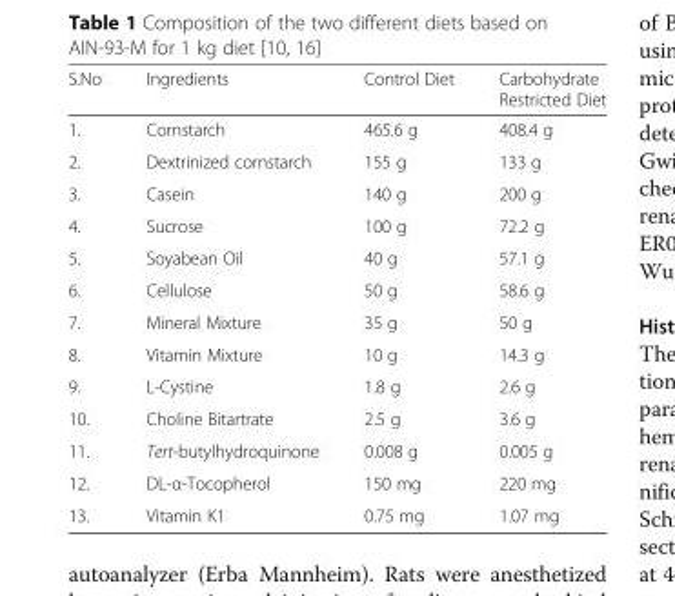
<table><thead><tr><td>S.No</td><td>Ingredients</td><td>Control Diet</td><td>Carbohydrate Restricted Diet</td></tr></thead><tbody><tr><td>1.</td><td>Cornstarch</td><td>465.6 g</td><td>408.4 g</td></tr><tr><td>2.</td><td>Dextrinized cornstarch</td><td>155 g</td><td>133 g</td></tr><tr><td>3.</td><td>Casein</td><td>140 g</td><td>200 g</td></tr><tr><td>4.</td><td>Sucrose</td><td>100 g</td><td>72.2 g</td></tr><tr><td>5.</td><td>Soyabean Oil</td><td>40 g</td><td>57.1 g</td></tr><tr><td>6.</td><td>Cellulose</td><td>50 g</td><td>58.6 g</td></tr><tr><td>7.</td><td>Mineral Mixture</td><td>35 g</td><td>50 g</td></tr><tr><td>8.</td><td>Vitamin Mixture</td><td>10 g</td><td>14.3 g</td></tr><tr><td>9.</td><td>L-Cystine</td><td>1.8 g</td><td>2.6 g</td></tr><tr><td>10.</td><td>Choline Bitartrate</td><td>2.5 g</td><td>3.6 g</td></tr><tr><td>11.</td><td>Tert-butylhydroquinone</td><td>0.008 g</td><td>0.005 g</td></tr><tr><td>12.</td><td>DL-α-Tocopherol</td><td>150 mg</td><td>220 mg</td></tr><tr><td>13.</td><td>Vitamin K1</td><td>0.75 mg</td><td>1.07 mg</td></tr></tbody></table>